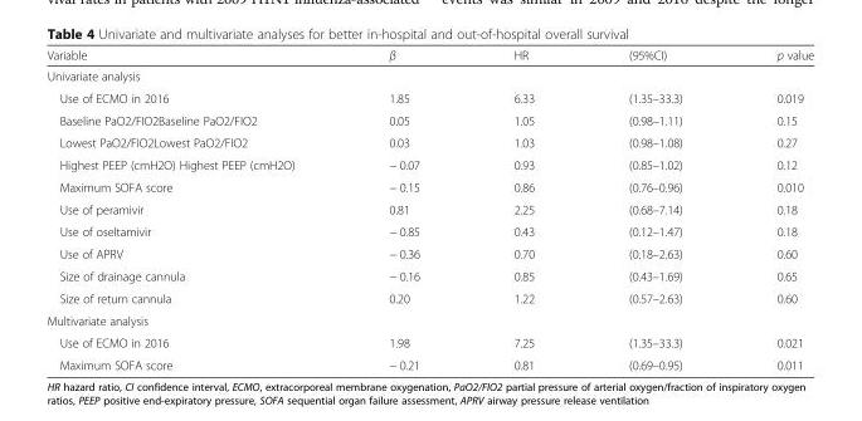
<table><thead><tr><td>Variable</td><td>β</td><td>HR</td><td>(95%CI)</td><td>p value</td></tr></thead><tbody><tr><td colspan="5">Univariate analysis</td></tr><tr><td>Use of ECMO in 2016</td><td>1.85</td><td>6.33</td><td>(1.35–33.3)</td><td>0.019</td></tr><tr><td>Baseline PaO2/FIO2Baseline PaO2/FIO2</td><td>0.05</td><td>1.05</td><td>(0.98–1.11)</td><td>0.15</td></tr><tr><td>Lowest PaO2/FIO2Lowest PaO2/FIO2</td><td>0.03</td><td>1.03</td><td>(0.98–1.08)</td><td>0.27</td></tr><tr><td>Highest PEEP (cmH2O) Highest PEEP (cmH2O)</td><td>− 0.07</td><td>0.93</td><td>(0.85–1.02)</td><td>0.12</td></tr><tr><td>Maximum SOFA score</td><td>− 0.15</td><td>0.86</td><td>(0.76–0.96)</td><td>0.010</td></tr><tr><td>Use of peramivir</td><td>0.81</td><td>2.25</td><td>(0.68–7.14)</td><td>0.18</td></tr><tr><td>Use of oseltamivir</td><td>− 0.85</td><td>0.43</td><td>(0.12–1.47)</td><td>0.18</td></tr><tr><td>Use of APRV</td><td>− 0.36</td><td>0.70</td><td>(0.18–2.63)</td><td>0.60</td></tr><tr><td>Size of drainage cannula</td><td>− 0.16</td><td>0.85</td><td>(0.43–1.69)</td><td>0.65</td></tr><tr><td>Size of return cannula</td><td>0.20</td><td>1.22</td><td>(0.57–2.63)</td><td>0.60</td></tr><tr><td colspan="5">Multivariate analysis</td></tr><tr><td>Use of ECMO in 2016</td><td>1.98</td><td>7.25</td><td>(1.35–33.3)</td><td>0.021</td></tr><tr><td>Maximum SOFA score</td><td>− 0.21</td><td>0.81</td><td>(0.69–0.95)</td><td>0.011</td></tr></tbody></table>